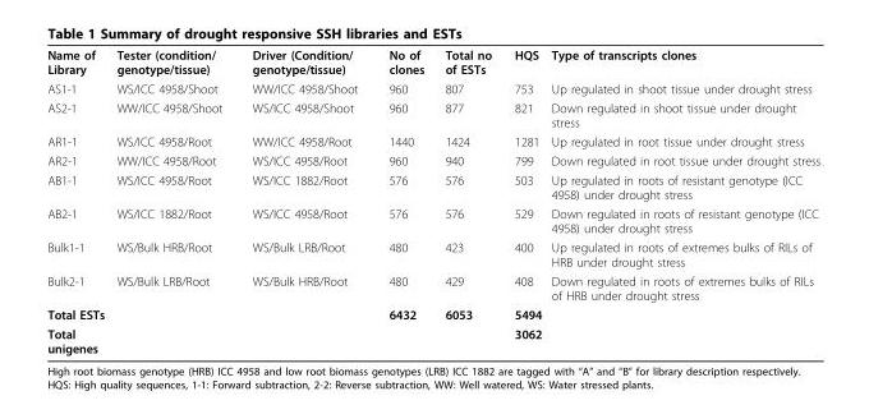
<table><tbody><tr><td>Name of Library</td><td>Tester (condition/ genotype/tissue)</td><td>Driver (Condition/ genotype/tissue)</td><td>No of clones</td><td>Total no of ESTs</td><td>HQS</td><td>Type of transcripts clones</td></tr><tr><td>AS1-1</td><td>WS/ICC 4958/Shoot</td><td>WW/ICC 4958/Shoot</td><td>960</td><td>807</td><td>753</td><td>Up regulated in shoot tissue under drought stress</td></tr><tr><td>AS2-1</td><td>WW/ICC 4958/Shoot</td><td>WS/ICC 4958/Shoot</td><td>960</td><td>877</td><td>821</td><td>Down regulated in shoot tissue under drought stress</td></tr><tr><td>AR1-1</td><td>WS/ICC 4958/Root</td><td>WW/ICC 4958/Root</td><td>1440</td><td>1424</td><td>1281</td><td>Up regulated in root tissue under drought stress</td></tr><tr><td>AR2-1</td><td>WW/ICC 4958/Root</td><td>WS/ICC 4958/Root</td><td>960</td><td>940</td><td>799</td><td>Down regulated in root tissue under drought stress</td></tr><tr><td>AB1-1</td><td>WS/ICC 4958/Root</td><td>WS/ICC 1882/Root</td><td>576</td><td>576</td><td>503</td><td>Up regulated in roots of resistant genotype (ICC 4958) under drought stress</td></tr><tr><td>AB2-1</td><td>WS/ICC 1882/Root</td><td>WS/ICC 4958/Root</td><td>576</td><td>576</td><td>529</td><td>Down regulated in roots of resistant genotype (ICC 4958) under drought stress</td></tr><tr><td>Bulk1-1</td><td>WS/Bulk HRB/Root</td><td>WS/Bulk LRB/Root</td><td>480</td><td>423</td><td>400</td><td>Up regulated in roots of extremes bulks of RILs of HRB under drought stress</td></tr><tr><td>Bulk2-1</td><td>WS/Bulk LRB/Root</td><td>WS/Bulk HRB/Root</td><td>480</td><td>429</td><td>408</td><td>Down regulated in roots of extremes bulks of RILs of HRB under drought stress</td></tr><tr><td>Total ESTs</td><td></td><td></td><td>6432</td><td>6053</td><td>5494</td><td></td></tr><tr><td>Total unigenes</td><td></td><td></td><td></td><td></td><td>3062</td><td></td></tr></tbody></table>